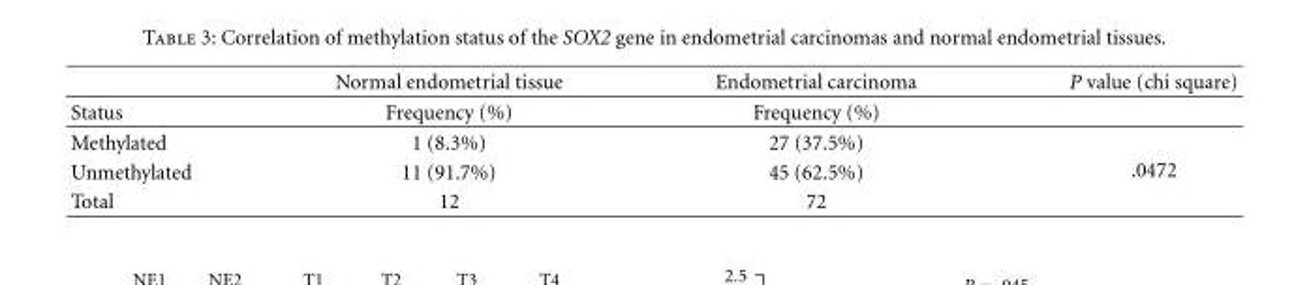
<table><thead><tr><td rowspan="2">Status</td><td rowspan="2">Normal endometrial tissue Frequency (%)</td><td rowspan="2">Endometrial carcinoma Frequency (%)</td><td rowspan="2">P value (chi square)</td></tr><tr></tr></thead><tbody><tr><td>Methylated</td><td>1 (8.3%)</td><td>27 (37.5%)</td><td rowspan="3">.0472</td></tr><tr><td>Unmethylated</td><td>11 (91.7%)</td><td>45 (62.5%)</td></tr><tr><td>Total</td><td>12</td><td>72</td></tr></tbody></table>